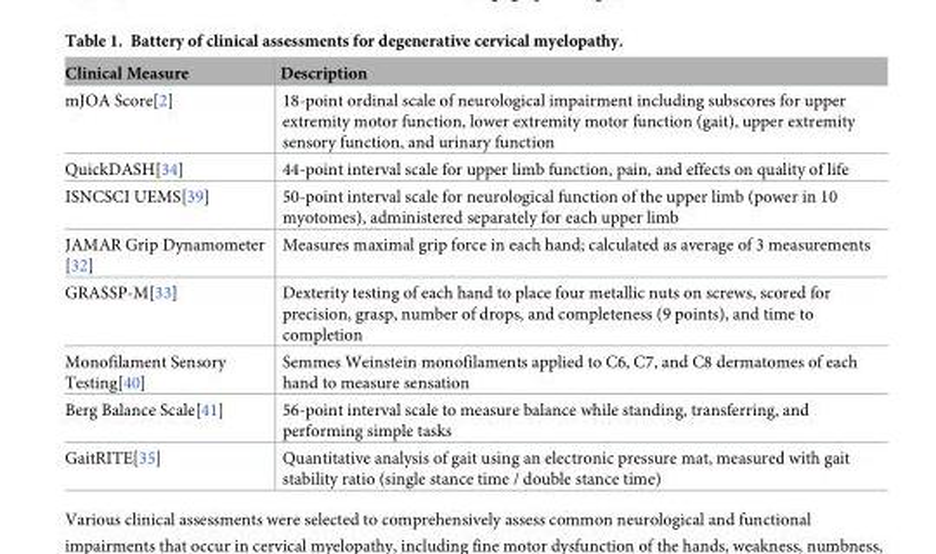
<table><thead><tr><td>Clinical Measure</td><td>Description</td></tr></thead><tbody><tr><td>mJOA Score[2]</td><td>18-point ordinal scale of neurological impairment including subscores for upper extremity motor function, lower extremity motor function (gait), upper extremity sensory function, and urinary function</td></tr><tr><td>QuickDASH[34]</td><td>44-point interval scale for upper limb function, pain, and effects on quality of life</td></tr><tr><td>ISNCSCI UEMS[39]</td><td>50-point interval scale for neurological function of the upper limb (power in 10 myotomes), administered separately for each upper limb</td></tr><tr><td>JAMAR Grip Dynamometer [32]</td><td>Measures maximal grip force in each hand; calculated as average of 3 measurements</td></tr><tr><td>GRASSP-M[33]</td><td>Dexterity testing of each hand to place four metallic nuts on screws, scored for precision, grasp, number of drops, and completeness (9 points), and time to completion</td></tr><tr><td>Monofilament Sensory Testing[40]</td><td>Semmes Weinstein monofilaments applied to C6, C7, and C8 dermatomes of each hand to measure sensation</td></tr><tr><td>Berg Balance Scale[41]</td><td>56-point interval scale to measure balance while standing, transferring, and performing simple tasks</td></tr><tr><td>GaitRITE[35]</td><td>Quantitative analysis of gait using an electronic pressure mat, measured with gait stability ratio (single stance time / double stance time)</td></tr></tbody></table>